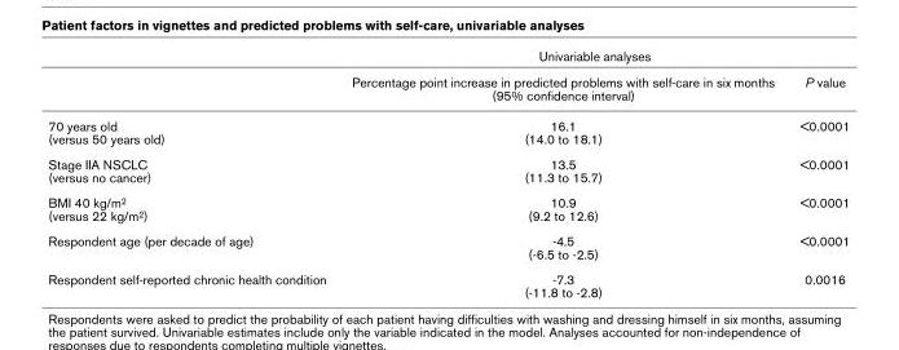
<table><thead><tr><td rowspan="2"></td><td colspan="2">Univariable analyses</td></tr><tr><td>Percentage point increase in predicted problems with self-care in six months (95% confidence interval)</td><td>P value</td></tr></thead><tbody><tr><td>70 years old (versus 50 years old)</td><td>16.1 (14.0 to 18.1)</td><td>&lt;0.0001</td></tr><tr><td>Stage IIA NSCLC (versus no cancer)</td><td>13.5 (11.3 to 15.7)</td><td>&lt;0.0001</td></tr><tr><td>BMI 40 kg/m<sup>2</sup> (versus 22 kg/m<sup>2</sup>)</td><td>10.9 (9.2 to 12.6)</td><td>&lt;0.0001</td></tr><tr><td>Respondent age (per decade of age)</td><td>-4.5 (-6.5 to -2.5)</td><td>&lt;0.0001</td></tr><tr><td>Respondent self-reported chronic health condition</td><td>-7.3 (-11.8 to -2.8)</td><td>0.0016</td></tr></tbody></table>